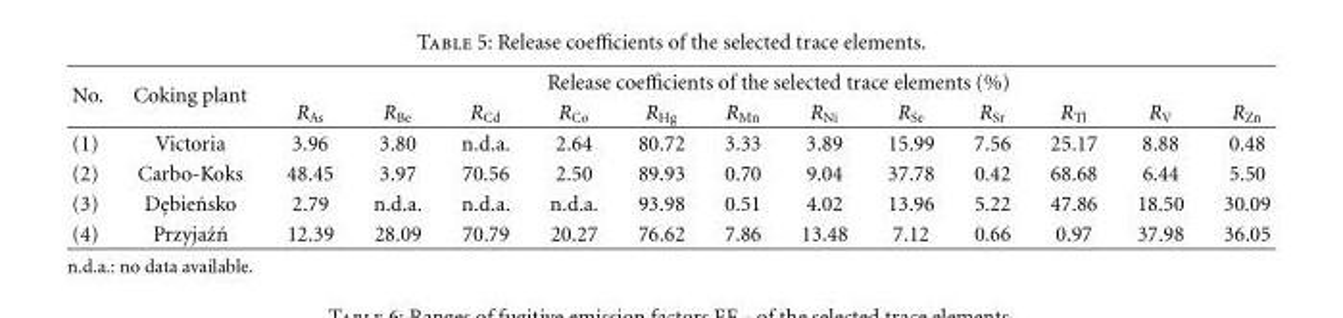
<table><thead><tr><td rowspan="2">No.</td><td rowspan="2">Coking plant</td><td colspan="12">Release coefficients of the selected trace elements (%)</td></tr><tr><td>R<sub>As</sub></td><td>R<sub>Be</sub></td><td>R<sub>Cd</sub></td><td>R<sub>Co</sub></td><td>R<sub>Hg</sub></td><td>R<sub>Mn</sub></td><td>R<sub>Ni</sub></td><td>R<sub>Se</sub></td><td>R<sub>Sr</sub></td><td>R<sub>Tl</sub></td><td>R<sub>V</sub></td><td>R<sub>Zn</sub></td></tr></thead><tbody><tr><td>(1)</td><td>Victoria</td><td>3.96</td><td>3.80</td><td>n.d.a.</td><td>2.64</td><td>80.72</td><td>3.33</td><td>3.89</td><td>15.99</td><td>7.56</td><td>25.17</td><td>8.88</td><td>0.48</td></tr><tr><td>(2)</td><td>Carbo-Koks</td><td>48.45</td><td>3.97</td><td>70.56</td><td>2.50</td><td>89.93</td><td>0.70</td><td>9.04</td><td>37.78</td><td>0.42</td><td>68.68</td><td>6.44</td><td>5.50</td></tr><tr><td>(3)</td><td>De¸bie´nsko</td><td>2.79</td><td>n.d.a.</td><td>n.d.a.</td><td>n.d.a.</td><td>93.98</td><td>0.51</td><td>4.02</td><td>13.96</td><td>5.22</td><td>47.86</td><td>18.50</td><td>30.09</td></tr><tr><td>(4)</td><td>Przyja´z´n</td><td>12.39</td><td>28.09</td><td>70.79</td><td>20.27</td><td>76.62</td><td>7.86</td><td>13.48</td><td>7.12</td><td>0.66</td><td>0.97</td><td>37.98</td><td>36.05</td></tr></tbody></table>